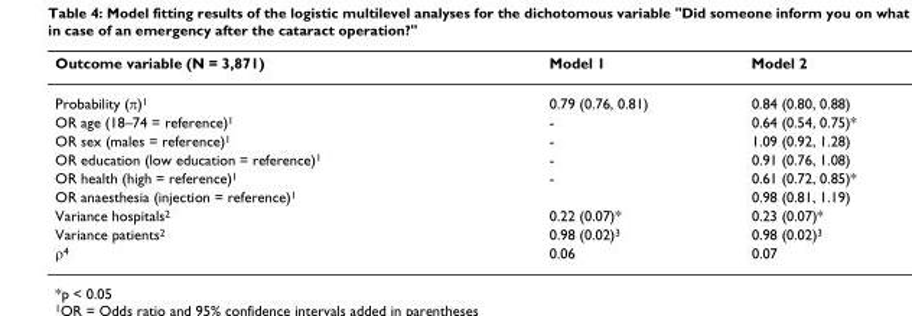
<table><thead><tr><td>Outcome variable (N = 3,871)</td><td>Model 1</td><td>Model 2</td></tr></thead><tbody><tr><td>Probability (π)<sup>1</sup></td><td>0.79 (0.76, 0.81)</td><td>0.84 (0.80, 0.88)</td></tr><tr><td>OR age (18–74 = reference)<sup>1</sup></td><td>-</td><td>0.64 (0.54, 0.75)*</td></tr><tr><td>OR sex (males = reference)<sup>1</sup></td><td>-</td><td>1.09 (0.92, 1.28)</td></tr><tr><td>OR education (low education = reference)<sup>1</sup></td><td>-</td><td>0.91 (0.76, 1.08)</td></tr><tr><td>OR health (high = reference)<sup>1</sup></td><td>-</td><td>0.61 (0.72, 0.85)*</td></tr><tr><td>OR anaesthesia (injection = reference)<sup>1</sup></td><td></td><td>0.98 (0.81, 1.19)</td></tr><tr><td>Variance hospitals<sup>2</sup></td><td>0.22 (0.07)*</td><td>0.23 (0.07)*</td></tr><tr><td>Variance patients<sup>2</sup></td><td>0.98 (0.02)<sup>3</sup></td><td>0.98 (0.02)<sup>3</sup></td></tr><tr><td>ρ<sup>4</sup></td><td>0.06</td><td>0.07</td></tr></tbody></table>